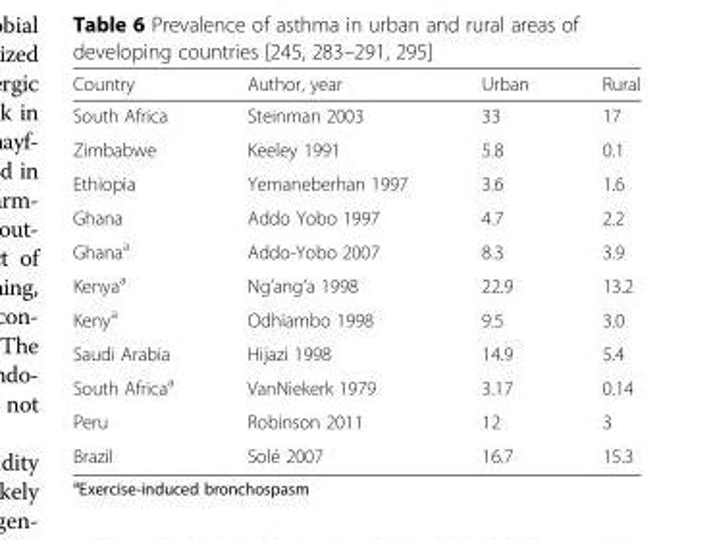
<table><thead><tr><td>Country</td><td>Author, year</td><td>Urban</td><td>Rural</td></tr></thead><tbody><tr><td>South Africa</td><td>Steinman 2003</td><td>33</td><td>17</td></tr><tr><td>Zimbabwe</td><td>Keeley 1991</td><td>5.8</td><td>0.1</td></tr><tr><td>Ethiopia</td><td>Yemaneberhan 1997</td><td>3.6</td><td>1.6</td></tr><tr><td>Ghana</td><td>Addo Yobo 1997</td><td>4.7</td><td>2.2</td></tr><tr><td>Ghana<sup>a</sup></td><td>Addo-Yobo 2007</td><td>8.3</td><td>3.9</td></tr><tr><td>Kenya<sup>a</sup></td><td>Ng’ang’a 1998</td><td>22.9</td><td>13.2</td></tr><tr><td>Keny<sup>a</sup></td><td>Odhiambo 1998</td><td>9.5</td><td>3.0</td></tr><tr><td>Saudi Arabia</td><td>Hijazi 1998</td><td>14.9</td><td>5.4</td></tr><tr><td>South Africa<sup>a</sup></td><td>VanNiekerk 1979</td><td>3.17</td><td>0.14</td></tr><tr><td>Peru</td><td>Robinson 2011</td><td>12</td><td>3</td></tr><tr><td>Brazil</td><td>Solé 2007</td><td>16.7</td><td>15.3</td></tr></tbody></table>